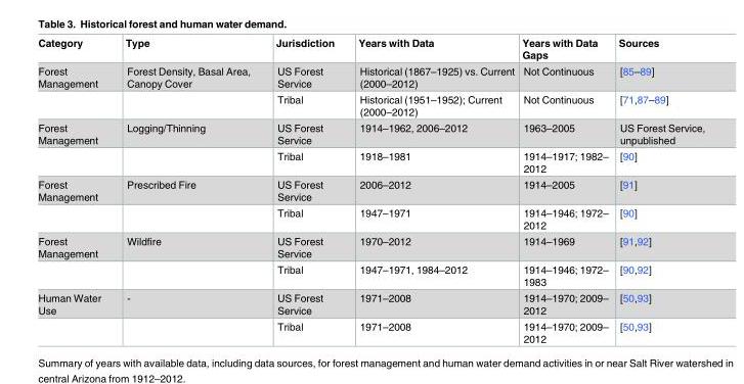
<table><thead><tr><td>Category</td><td>Type</td><td>Jurisdiction</td><td>Years with Data</td><td>Years with Data Gaps</td><td>Sources</td></tr></thead><tbody><tr><td rowspan="2">Forest Management</td><td>Forest Density, Basal Area, Canopy Cover</td><td>US Forest Service</td><td>Historical (1867–1925) vs. Current (2000–2012)</td><td>Not Continuous</td><td>[85–89]</td></tr><tr><td></td><td>Tribal</td><td>Historical (1951–1952); Current (2000–2012)</td><td>Not Continuous</td><td>[71,87–89]</td></tr><tr><td rowspan="2">Forest Management</td><td>Logging/Thinning</td><td>US Forest Service</td><td>1914–1962, 2006–2012</td><td>1963–2005</td><td>US Forest Service, unpublished</td></tr><tr><td></td><td>Tribal</td><td>1918–1981</td><td>1914–1917; 1982– 2012</td><td>[90]</td></tr><tr><td rowspan="2">Forest Management</td><td>Prescribed Fire</td><td>US Forest Service</td><td>2006–2012</td><td>1914–2005</td><td>[91]</td></tr><tr><td></td><td>Tribal</td><td>1947–1971</td><td>1914–1946; 1972– 2012</td><td>[90]</td></tr><tr><td rowspan="2">Forest Management</td><td>Wildfire</td><td>US Forest Service</td><td>1970–2012</td><td>1914–1969</td><td>[91,92]</td></tr><tr><td></td><td>Tribal</td><td>1947–1971, 1984–2012</td><td>1914–1946; 1972– 1983</td><td>[90,92]</td></tr><tr><td rowspan="2">Human Water Use</td><td>-</td><td>US Forest Service</td><td>1971–2008</td><td>1914–1970; 2009– 2012</td><td>[50,93]</td></tr><tr><td></td><td>Tribal</td><td>1971–2008</td><td>1914–1970; 2009– 2012</td><td>[50,93]</td></tr></tbody></table>